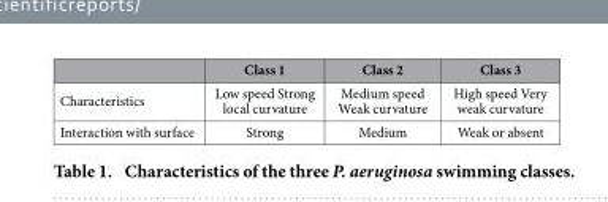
<table><thead><tr><td></td><td>Class 1</td><td>Class 2</td><td>Class 3</td></tr></thead><tbody><tr><td>Characteristics</td><td>Low speed Strong local curvature</td><td>Medium speed Weak curvature</td><td>High speed Very weak curvature</td></tr><tr><td>Interaction with surface</td><td>Strong</td><td>Medium</td><td>Weak or absent</td></tr></tbody></table>